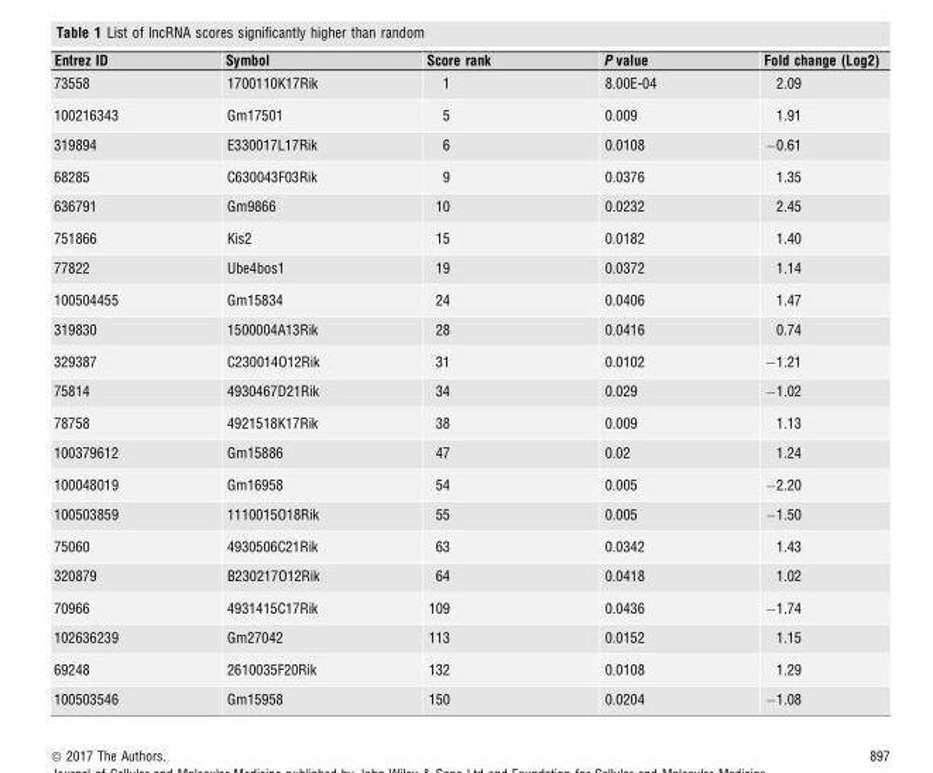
<table><thead><tr><td>Entrez ID</td><td>Symbol</td><td>Score rank</td><td>P value</td><td>Fold change (Log2)</td></tr></thead><tbody><tr><td>73558</td><td>1700110K17Rik</td><td>1</td><td>8.00E-04</td><td>2.09</td></tr><tr><td>100216343</td><td>Gm17501</td><td>5</td><td>0.009</td><td>1.91</td></tr><tr><td>319894</td><td>E330017L17Rik</td><td>6</td><td>0.0108</td><td>−0.61</td></tr><tr><td>68285</td><td>C630043F03Rik</td><td>9</td><td>0.0376</td><td>1.35</td></tr><tr><td>636791</td><td>Gm9866</td><td>10</td><td>0.0232</td><td>2.45</td></tr><tr><td>751866</td><td>Kis2</td><td>15</td><td>0.0182</td><td>1.40</td></tr><tr><td>77822</td><td>Ube4bos1</td><td>19</td><td>0.0372</td><td>1.14</td></tr><tr><td>100504455</td><td>Gm15834</td><td>24</td><td>0.0406</td><td>1.47</td></tr><tr><td>319830</td><td>1500004A13Rik</td><td>28</td><td>0.0416</td><td>0.74</td></tr><tr><td>329387</td><td>C230014O12Rik</td><td>31</td><td>0.0102</td><td>−1.21</td></tr><tr><td>75814</td><td>4930467D21Rik</td><td>34</td><td>0.029</td><td>−1.02</td></tr><tr><td>78758</td><td>4921518K17Rik</td><td>38</td><td>0.009</td><td>1.13</td></tr><tr><td>100379612</td><td>Gm15886</td><td>47</td><td>0.02</td><td>1.24</td></tr><tr><td>100048019</td><td>Gm16958</td><td>54</td><td>0.005</td><td>−2.20</td></tr><tr><td>100503859</td><td>1110015O18Rik</td><td>55</td><td>0.005</td><td>−1.50</td></tr><tr><td>75060</td><td>4930506C21Rik</td><td>63</td><td>0.0342</td><td>1.43</td></tr><tr><td>320879</td><td>B230217O12Rik</td><td>64</td><td>0.0418</td><td>1.02</td></tr><tr><td>70966</td><td>4931415C17Rik</td><td>109</td><td>0.0436</td><td>−1.74</td></tr><tr><td>102636239</td><td>Gm27042</td><td>113</td><td>0.0152</td><td>1.15</td></tr><tr><td>69248</td><td>2610035F20Rik</td><td>132</td><td>0.0108</td><td>1.29</td></tr><tr><td>100503546</td><td>Gm15958</td><td>150</td><td>0.0204</td><td>−1.08</td></tr></tbody></table>